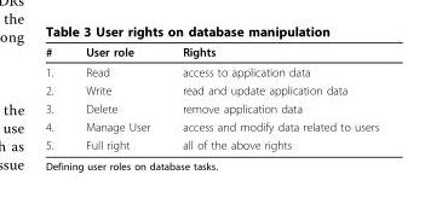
<table><thead><tr><td>#</td><td>User role</td><td>Rights</td></tr></thead><tbody><tr><td>1.</td><td>Read</td><td>access to application data</td></tr><tr><td>2.</td><td>Write</td><td>read and update application data</td></tr><tr><td>3.</td><td>Delete</td><td>remove application data</td></tr><tr><td>4.</td><td>Manage User</td><td>access and modify data related to users</td></tr><tr><td>5.</td><td>Full right</td><td>all of the above rights</td></tr></tbody></table>